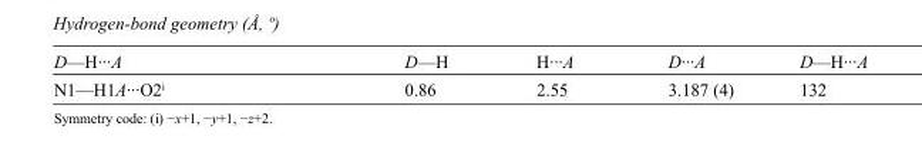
<table><tbody><tr><td>D—H···A</td><td>D—H</td><td>H···A</td><td>D···A</td><td>D—H···A</td></tr><tr><td>N1—H1A···O2<sup>i</sup></td><td>0.86</td><td>2.55</td><td>3.187 (4)</td><td>132</td></tr></tbody></table>